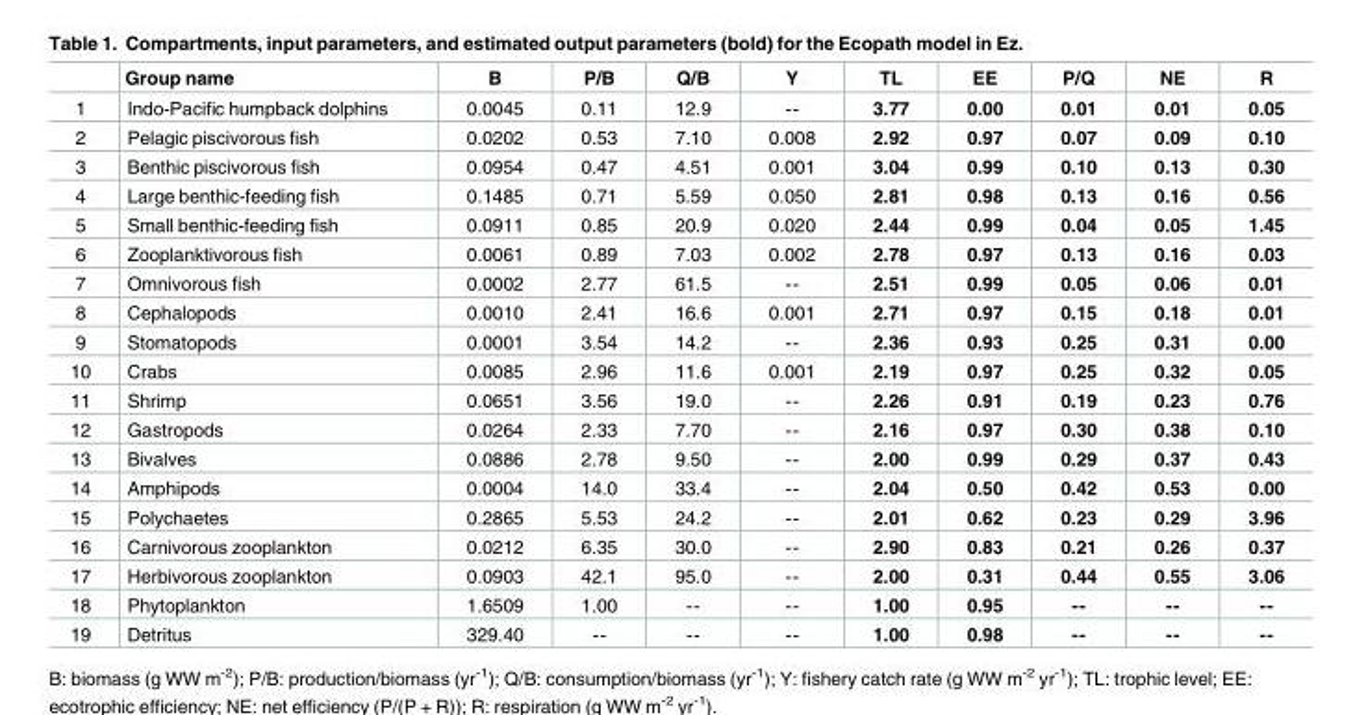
<table><thead><tr><td></td><td>Group name</td><td>B</td><td>P/B</td><td>Q/B</td><td>Y</td><td>TL</td><td>EE</td><td>P/Q</td><td>NE</td><td>R</td></tr></thead><tbody><tr><td>1</td><td>Indo-Pacific humpback dolphins</td><td>0.0045</td><td>0.11</td><td>12.9</td><td>--</td><td>3.77</td><td>0.00</td><td>0.01</td><td>0.01</td><td>0.05</td></tr><tr><td>2</td><td>Pelagic piscivorous fish</td><td>0.0202</td><td>0.53</td><td>7.10</td><td>0.008</td><td>2.92</td><td>0.97</td><td>0.07</td><td>0.09</td><td>0.10</td></tr><tr><td>3</td><td>Benthic piscivorous fish</td><td>0.0954</td><td>0.47</td><td>4.51</td><td>0.001</td><td>3.04</td><td>0.99</td><td>0.10</td><td>0.13</td><td>0.30</td></tr><tr><td>4</td><td>Large benthic-feeding fish</td><td>0.1485</td><td>0.71</td><td>5.59</td><td>0.050</td><td>2.81</td><td>0.98</td><td>0.13</td><td>0.16</td><td>0.56</td></tr><tr><td>5</td><td>Small benthic-feeding fish</td><td>0.0911</td><td>0.85</td><td>20.9</td><td>0.020</td><td>2.44</td><td>0.99</td><td>0.04</td><td>0.05</td><td>1.45</td></tr><tr><td>6</td><td>Zooplanktivorous fish</td><td>0.0061</td><td>0.89</td><td>7.03</td><td>0.002</td><td>2.78</td><td>0.97</td><td>0.13</td><td>0.16</td><td>0.03</td></tr><tr><td>7</td><td>Omnivorous fish</td><td>0.0002</td><td>2.77</td><td>61.5</td><td>--</td><td>2.51</td><td>0.99</td><td>0.05</td><td>0.06</td><td>0.01</td></tr><tr><td>8</td><td>Cephalopods</td><td>0.0010</td><td>2.41</td><td>16.6</td><td>0.001</td><td>2.71</td><td>0.97</td><td>0.15</td><td>0.18</td><td>0.01</td></tr><tr><td>9</td><td>Stomatopods</td><td>0.0001</td><td>3.54</td><td>14.2</td><td>--</td><td>2.36</td><td>0.93</td><td>0.25</td><td>0.31</td><td>0.00</td></tr><tr><td>10</td><td>Crabs</td><td>0.0085</td><td>2.96</td><td>11.6</td><td>0.001</td><td>2.19</td><td>0.97</td><td>0.25</td><td>0.32</td><td>0.05</td></tr><tr><td>11</td><td>Shrimp</td><td>0.0651</td><td>3.56</td><td>19.0</td><td>--</td><td>2.26</td><td>0.91</td><td>0.19</td><td>0.23</td><td>0.76</td></tr><tr><td>12</td><td>Gastropods</td><td>0.0264</td><td>2.33</td><td>7.70</td><td>--</td><td>2.16</td><td>0.97</td><td>0.30</td><td>0.38</td><td>0.10</td></tr><tr><td>13</td><td>Bivalves</td><td>0.0886</td><td>2.78</td><td>9.50</td><td>--</td><td>2.00</td><td>0.99</td><td>0.29</td><td>0.37</td><td>0.43</td></tr><tr><td>14</td><td>Amphipods</td><td>0.0004</td><td>14.0</td><td>33.4</td><td>--</td><td>2.04</td><td>0.50</td><td>0.42</td><td>0.53</td><td>0.00</td></tr><tr><td>15</td><td>Polychaetes</td><td>0.2865</td><td>5.53</td><td>24.2</td><td>--</td><td>2.01</td><td>0.62</td><td>0.23</td><td>0.29</td><td>3.96</td></tr><tr><td>16</td><td>Carnivorous zooplankton</td><td>0.0212</td><td>6.35</td><td>30.0</td><td>--</td><td>2.90</td><td>0.83</td><td>0.21</td><td>0.26</td><td>0.37</td></tr><tr><td>17</td><td>Herbivorous zooplankton</td><td>0.0903</td><td>42.1</td><td>95.0</td><td>--</td><td>2.00</td><td>0.31</td><td>0.44</td><td>0.55</td><td>3.06</td></tr><tr><td>18</td><td>Phytoplankton</td><td>1.6509</td><td>1.00</td><td>--</td><td>--</td><td>1.00</td><td>0.95</td><td>--</td><td>--</td><td>--</td></tr><tr><td>19</td><td>Detritus</td><td>329.40</td><td>--</td><td>--</td><td>--</td><td>1.00</td><td>0.98</td><td>--</td><td>--</td><td>--</td></tr></tbody></table>